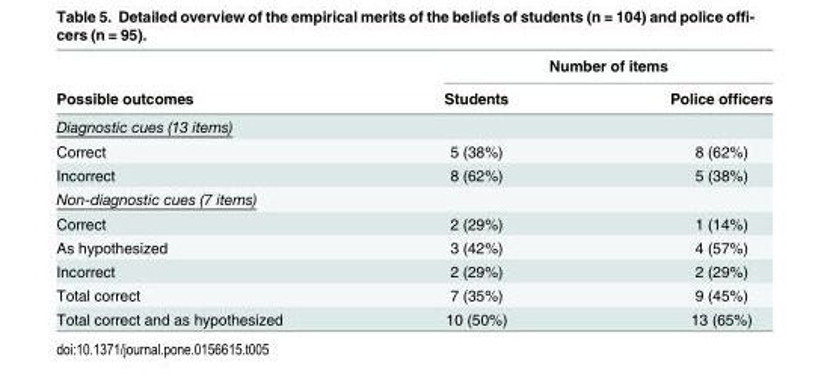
<table><thead><tr><td rowspan="2">Possible outcomes</td><td colspan="2">Number of items</td></tr><tr><td>Students</td><td>Police officers</td></tr></thead><tbody><tr><td colspan="3">Diagnostic cues (13 items)</td></tr><tr><td>Correct</td><td>5 (38%)</td><td>8 (62%)</td></tr><tr><td>Incorrect</td><td>8 (62%)</td><td>5 (38%)</td></tr><tr><td colspan="3">Non-diagnostic cues (7 items)</td></tr><tr><td>Correct</td><td>2 (29%)</td><td>1 (14%)</td></tr><tr><td>As hypothesized</td><td>3 (42%)</td><td>4 (57%)</td></tr><tr><td>Incorrect</td><td>2 (29%)</td><td>2 (29%)</td></tr><tr><td>Total correct</td><td>7 (35%)</td><td>9 (45%)</td></tr><tr><td>Total correct and as hypothesized</td><td>10 (50%)</td><td>13 (65%)</td></tr></tbody></table>